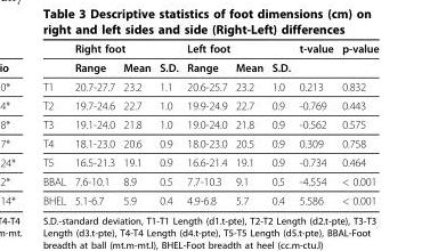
<table><thead><tr><td rowspan="2"></td><td colspan="3">Right foot</td><td colspan="3">Left foot</td><td rowspan="2">t-value</td><td rowspan="2">p-value</td></tr><tr><td>Range</td><td>Mean</td><td>S.D.</td><td>Range</td><td>Mean</td><td>S.D.</td></tr></thead><tbody><tr><td>T1</td><td>20.7-27.7</td><td>23.2</td><td>1.1</td><td>20.6-25.7</td><td>23.2</td><td>1.0</td><td>0.213</td><td>0.832</td></tr><tr><td>T2</td><td>19.7-24.6</td><td>22.7</td><td>1.0</td><td>19.9-24.9</td><td>22.7</td><td>0.9</td><td>-0.769</td><td>0.443</td></tr><tr><td>T3</td><td>19.1-24.0</td><td>21.8</td><td>1.0</td><td>19.0-24.0</td><td>21.8</td><td>0.9</td><td>-0.562</td><td>0.575</td></tr><tr><td>T4</td><td>18.1-23.0</td><td>20.6</td><td>0.9</td><td>18.0-23.0</td><td>20.5</td><td>0.9</td><td>0.309</td><td>0.758</td></tr><tr><td>T5</td><td>16.5-21.3</td><td>19.1</td><td>0.9</td><td>16.6-21.4</td><td>19.1</td><td>0.9</td><td>-0.734</td><td>0.464</td></tr><tr><td>BBAL</td><td>7.6-10.1</td><td>8.9</td><td>0.5</td><td>7.7-10.3</td><td>9.1</td><td>0.5</td><td>-4.554</td><td>&lt; 0.001</td></tr><tr><td>BHEL</td><td>5.1-6.7</td><td>5.9</td><td>0.4</td><td>4.9-6.8</td><td>5.7</td><td>0.4</td><td>5.586</td><td>&lt; 0.001</td></tr></tbody></table>